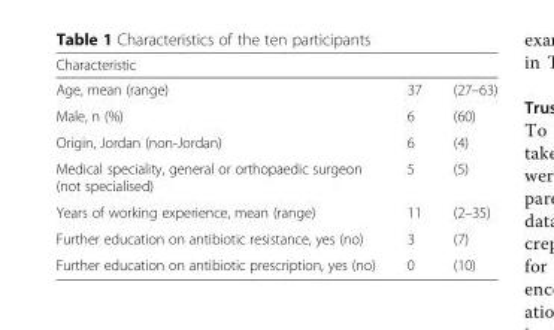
<table><thead><tr><td>Characteristic</td><td></td><td></td></tr></thead><tbody><tr><td>Age, mean (range)</td><td>37</td><td>(27–63)</td></tr><tr><td>Male, n (%)</td><td>6</td><td>(60)</td></tr><tr><td>Origin, Jordan (non-Jordan)</td><td>6</td><td>(4)</td></tr><tr><td>Medical speciality, general or orthopaedic surgeon (not specialised)</td><td>5</td><td>(5)</td></tr><tr><td>Years of working experience, mean (range)</td><td>11</td><td>(2–35)</td></tr><tr><td>Further education on antibiotic resistance, yes (no)</td><td>3</td><td>(7)</td></tr><tr><td>Further education on antibiotic prescription, yes (no)</td><td>0</td><td>(10)</td></tr></tbody></table>